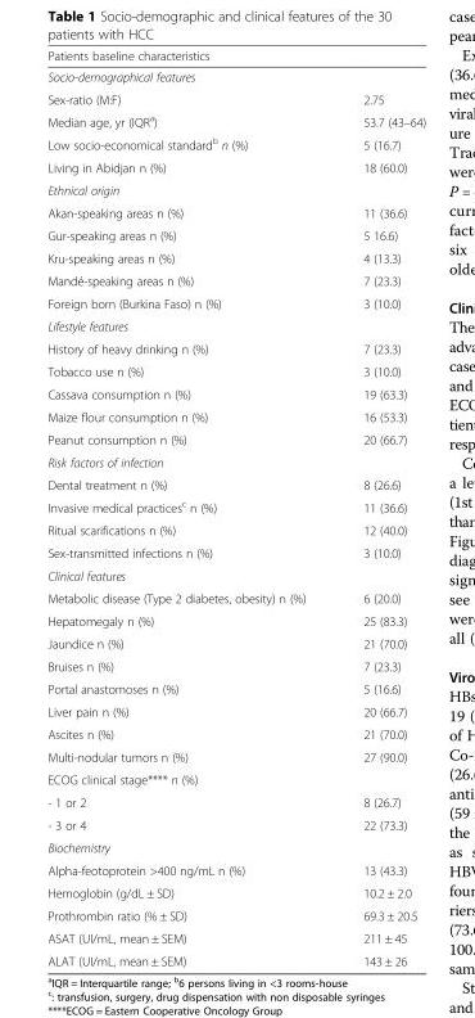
<table><thead><tr><td>Patients baseline characteristics</td><td></td></tr></thead><tbody><tr><td colspan="2">Socio-demographical features</td></tr><tr><td>Sex-ratio (M:F)</td><td>2.75</td></tr><tr><td>Median age, yr (IQR<sup>a</sup>)</td><td>53.7 (43–64)</td></tr><tr><td>Low socio-economical standard<sup>b</sup> n (%)</td><td>5 (16.7)</td></tr><tr><td>Living in Abidjan n (%)</td><td>18 (60.0)</td></tr><tr><td colspan="2">Ethnical origin</td></tr><tr><td>Akan-speaking areas n (%)</td><td>11 (36.6)</td></tr><tr><td>Gur-speaking areas n (%)</td><td>5 16.6)</td></tr><tr><td>Kru-speaking areas n (%)</td><td>4 (13.3)</td></tr><tr><td>Mandé-speaking areas n (%)</td><td>7 (23.3)</td></tr><tr><td>Foreign born (Burkina Faso) n (%)</td><td>3 (10.0)</td></tr><tr><td colspan="2">Lifestyle features</td></tr><tr><td>History of heavy drinking n (%)</td><td>7 (23.3)</td></tr><tr><td>Tobacco use n (%)</td><td>3 (10.0)</td></tr><tr><td>Cassava consumption n (%)</td><td>19 (63.3)</td></tr><tr><td>Maize flour consumption n (%)</td><td>16 (53.3)</td></tr><tr><td>Peanut consumption n (%)</td><td>20 (66.7)</td></tr><tr><td colspan="2">Risk factors of infection</td></tr><tr><td>Dental treatment n (%)</td><td>8 (26.6)</td></tr><tr><td>Invasive medical practices<sup>c</sup> n (%)</td><td>11 (36.6)</td></tr><tr><td>Ritual scarifications n (%)</td><td>12 (40.0)</td></tr><tr><td>Sex-transmitted infections n (%)</td><td>3 (10.0)</td></tr><tr><td colspan="2">Clinical features</td></tr><tr><td>Metabolic disease (Type 2 diabetes, obesity) n (%)</td><td>6 (20.0)</td></tr><tr><td>Hepatomegaly n (%)</td><td>25 (83.3)</td></tr><tr><td>Jaundice n (%)</td><td>21 (70.0)</td></tr><tr><td>Bruises n (%)</td><td>7 (23.3)</td></tr><tr><td>Portal anastomoses n (%)</td><td>5 (16.6)</td></tr><tr><td>Liver pain n (%)</td><td>20 (66.7)</td></tr><tr><td>Ascites n (%)</td><td>21 (70.0)</td></tr><tr><td>Multi-nodular tumors n (%)</td><td>27 (90.0)</td></tr><tr><td colspan="2">ECOG clinical stage**** n (%)</td></tr><tr><td>- 1 or 2</td><td>8 (26.7)</td></tr><tr><td>- 3 or 4</td><td>22 (73.3)</td></tr><tr><td colspan="2">Biochemistry</td></tr><tr><td>Alpha-feotoprotein &gt;400 ng/mL n (%)</td><td>13 (43.3)</td></tr><tr><td>Hemoglobin (g/dL ± SD)</td><td>10.2 ± 2.0</td></tr><tr><td>Prothrombin ratio (% ± SD)</td><td>69.3 ± 20.5</td></tr><tr><td>ASAT (UI/mL, mean ± SEM)</td><td>211 ± 45</td></tr><tr><td>ALAT (UI/mL, mean ± SEM)</td><td>143 ± 26</td></tr></tbody></table>